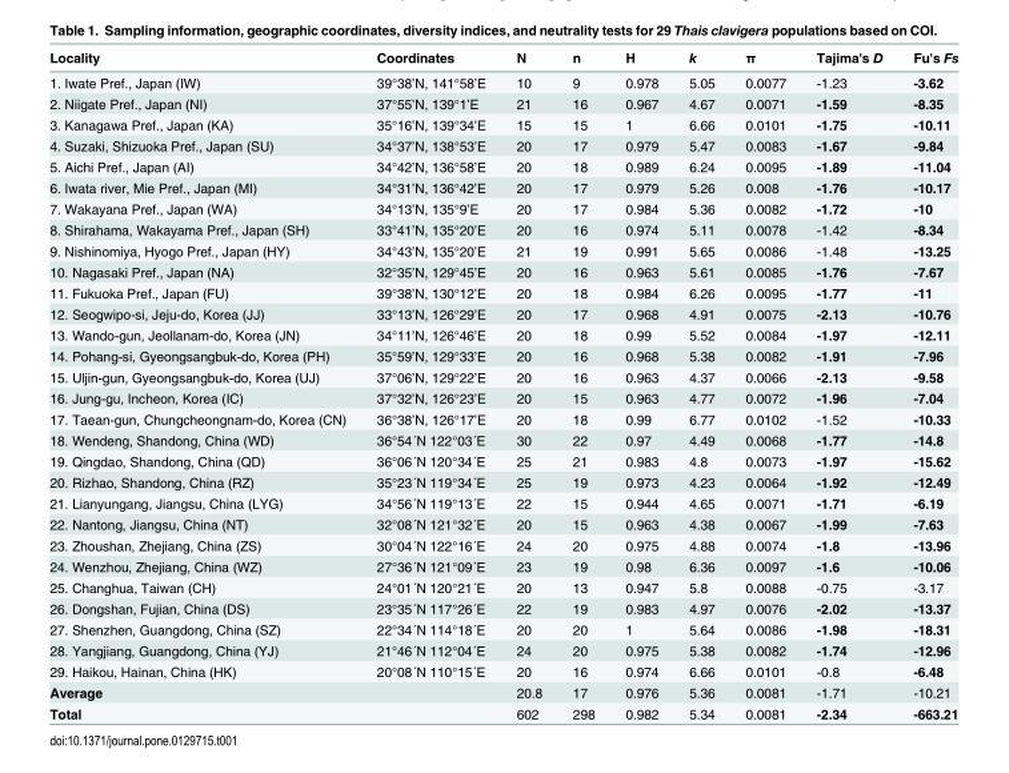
<table><thead><tr><td>Locality</td><td>Coordinates</td><td>N</td><td>n</td><td>H</td><td>k</td><td>π</td><td>Tajima&#x27;s D</td><td>Fu&#x27;s Fs</td></tr></thead><tbody><tr><td>1. Iwate Pref., Japan (IW)</td><td>39°38’N, 141°58’E</td><td>10</td><td>9</td><td>0.978</td><td>5.05</td><td>0.0077</td><td>-1.23</td><td>-3.62</td></tr><tr><td>2. Niigate Pref., Japan (NI)</td><td>37°55’N, 139°1’E</td><td>21</td><td>16</td><td>0.967</td><td>4.67</td><td>0.0071</td><td>-1.59</td><td>-8.35</td></tr><tr><td>3. Kanagawa Pref., Japan (KA)</td><td>35°16’N, 139°34’E</td><td>15</td><td>15</td><td>1</td><td>6.66</td><td>0.0101</td><td>-1.75</td><td>-10.11</td></tr><tr><td>4. Suzaki, Shizuoka Pref., Japan (SU)</td><td>34°37’N, 138°53’E</td><td>20</td><td>17</td><td>0.979</td><td>5.47</td><td>0.0083</td><td>-1.67</td><td>-9.84</td></tr><tr><td>5. Aichi Pref., Japan (AI)</td><td>34°42’N, 136°58’E</td><td>20</td><td>18</td><td>0.989</td><td>6.24</td><td>0.0095</td><td>-1.89</td><td>-11.04</td></tr><tr><td>6. Iwata river, Mie Pref., Japan (MI)</td><td>34°31’N, 136°42’E</td><td>20</td><td>17</td><td>0.979</td><td>5.26</td><td>0.008</td><td>-1.76</td><td>-10.17</td></tr><tr><td>7. Wakayana Pref., Japan (WA)</td><td>34°13’N, 135°9’E</td><td>20</td><td>17</td><td>0.984</td><td>5.36</td><td>0.0082</td><td>-1.72</td><td>-10</td></tr><tr><td>8. Shirahama, Wakayama Pref., Japan (SH)</td><td>33°41’N, 135°20’E</td><td>20</td><td>16</td><td>0.974</td><td>5.11</td><td>0.0078</td><td>-1.42</td><td>-8.34</td></tr><tr><td>9. Nishinomiya, Hyogo Pref., Japan (HY)</td><td>34°43’N, 135°20’E</td><td>21</td><td>19</td><td>0.991</td><td>5.65</td><td>0.0086</td><td>-1.48</td><td>-13.25</td></tr><tr><td>10. Nagasaki Pref., Japan (NA)</td><td>32°35’N, 129°45’E</td><td>20</td><td>16</td><td>0.963</td><td>5.61</td><td>0.0085</td><td>-1.76</td><td>-7.67</td></tr><tr><td>11. Fukuoka Pref., Japan (FU)</td><td>39°38’N, 130°12’E</td><td>20</td><td>18</td><td>0.984</td><td>6.26</td><td>0.0095</td><td>-1.77</td><td>-11</td></tr><tr><td>12. Seogwipo-si, Jeju-do, Korea (JJ)</td><td>33°13’N, 126°29’E</td><td>20</td><td>17</td><td>0.968</td><td>4.91</td><td>0.0075</td><td>-2.13</td><td>-10.76</td></tr><tr><td>13. Wando-gun, Jeollanam-do, Korea (JN)</td><td>34°11’N, 126°46’E</td><td>20</td><td>18</td><td>0.99</td><td>5.52</td><td>0.0084</td><td>-1.97</td><td>-12.11</td></tr><tr><td>14. Pohang-si, Gyeongsangbuk-do, Korea (PH)</td><td>35°59’N, 129°33’E</td><td>20</td><td>16</td><td>0.968</td><td>5.38</td><td>0.0082</td><td>-1.91</td><td>-7.96</td></tr><tr><td>15. Uljin-gun, Gyeongsangbuk-do, Korea (UJ)</td><td>37°06’N, 129°22’E</td><td>20</td><td>16</td><td>0.963</td><td>4.37</td><td>0.0066</td><td>-2.13</td><td>-9.58</td></tr><tr><td>16. Jung-gu, Incheon, Korea (IC)</td><td>37°32’N, 126°23’E</td><td>20</td><td>15</td><td>0.963</td><td>4.77</td><td>0.0072</td><td>-1.96</td><td>-7.04</td></tr><tr><td>17. Taean-gun, Chungcheongnam-do, Korea (CN)</td><td>36°38’N, 126°17’E</td><td>20</td><td>18</td><td>0.99</td><td>6.77</td><td>0.0102</td><td>-1.52</td><td>-10.33</td></tr><tr><td>18. Wendeng, Shandong, China (WD)</td><td>36°54´N 122°03´E</td><td>30</td><td>22</td><td>0.97</td><td>4.49</td><td>0.0068</td><td>-1.77</td><td>-14.8</td></tr><tr><td>19. Qingdao, Shandong, China (QD)</td><td>36°06´N 120°34´E</td><td>25</td><td>21</td><td>0.983</td><td>4.8</td><td>0.0073</td><td>-1.97</td><td>-15.62</td></tr><tr><td>20. Rizhao, Shandong, China (RZ)</td><td>35°23´N 119°34´E</td><td>25</td><td>19</td><td>0.973</td><td>4.23</td><td>0.0064</td><td>-1.92</td><td>-12.49</td></tr><tr><td>21. Lianyungang, Jiangsu, China (LYG)</td><td>34°56´N 119°13´E</td><td>22</td><td>15</td><td>0.944</td><td>4.65</td><td>0.0071</td><td>-1.71</td><td>-6.19</td></tr><tr><td>22. Nantong, Jiangsu, China (NT)</td><td>32°08´N 121°32´E</td><td>20</td><td>15</td><td>0.963</td><td>4.38</td><td>0.0067</td><td>-1.99</td><td>-7.63</td></tr><tr><td>23. Zhoushan, Zhejiang, China (ZS)</td><td>30°04´N 122°16´E</td><td>24</td><td>20</td><td>0.975</td><td>4.88</td><td>0.0074</td><td>-1.8</td><td>-13.96</td></tr><tr><td>24. Wenzhou, Zhejiang, China (WZ)</td><td>27°36´N 121°09´E</td><td>23</td><td>19</td><td>0.98</td><td>6.36</td><td>0.0097</td><td>-1.6</td><td>-10.06</td></tr><tr><td>25. Changhua, Taiwan (CH)</td><td>24°01´N 120°21´E</td><td>20</td><td>13</td><td>0.947</td><td>5.8</td><td>0.0088</td><td>-0.75</td><td>-3.17</td></tr><tr><td>26. Dongshan, Fujian, China (DS)</td><td>23°35´N 117°26´E</td><td>22</td><td>19</td><td>0.983</td><td>4.97</td><td>0.0076</td><td>-2.02</td><td>-13.37</td></tr><tr><td>27. Shenzhen, Guangdong, China (SZ)</td><td>22°34´N 114°18´E</td><td>20</td><td>20</td><td>1</td><td>5.64</td><td>0.0086</td><td>-1.98</td><td>-18.31</td></tr><tr><td>28. Yangjiang, Guangdong, China (YJ)</td><td>21°46´N 112°04´E</td><td>24</td><td>20</td><td>0.975</td><td>5.38</td><td>0.0082</td><td>-1.74</td><td>-12.96</td></tr><tr><td>29. Haikou, Hainan, China (HK)</td><td>20°08´N 110°15´E</td><td>20</td><td>16</td><td>0.974</td><td>6.66</td><td>0.0101</td><td>-0.8</td><td>-6.48</td></tr><tr><td>Average</td><td></td><td>20.8</td><td>17</td><td>0.976</td><td>5.36</td><td>0.0081</td><td>-1.71</td><td>-10.21</td></tr><tr><td>Total</td><td></td><td>602</td><td>298</td><td>0.982</td><td>5.34</td><td>0.0081</td><td>-2.34</td><td>-663.21</td></tr></tbody></table>